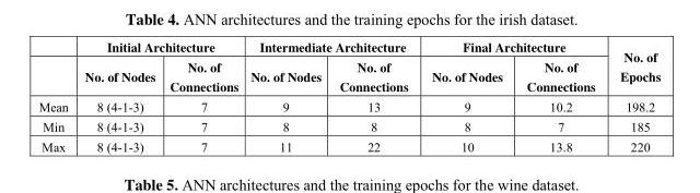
<table><thead><tr><td rowspan="2"></td><td colspan="2">Initial Architecture</td><td colspan="2">Intermediate Architecture</td><td colspan="2">Final Architecture</td><td rowspan="2">No. of Epochs</td></tr><tr><td>No. of Nodes</td><td>No. of Connections</td><td>No. of Nodes</td><td>No. of Connections</td><td>No. of Nodes</td><td>No. of Connections</td></tr></thead><tbody><tr><td>Mean</td><td>8 (4-1-3)</td><td>7</td><td>9</td><td>13</td><td>9</td><td>10.2</td><td>198.2</td></tr><tr><td>Min</td><td>8 (4-1-3)</td><td>7</td><td>8</td><td>8</td><td>8</td><td>7</td><td>185</td></tr><tr><td>Max</td><td>8 (4-1-3)</td><td>7</td><td>11</td><td>22</td><td>10</td><td>13.8</td><td>220</td></tr></tbody></table>